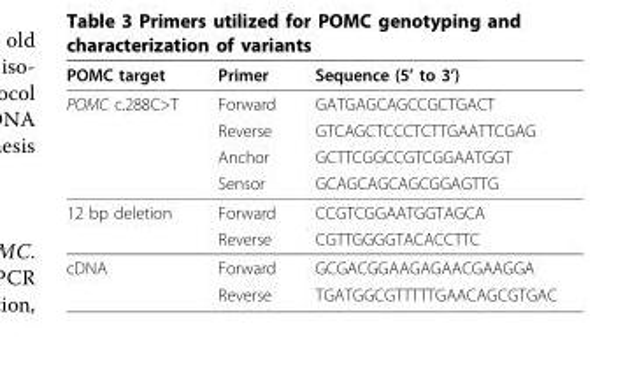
<table><thead><tr><td>POMC target</td><td>Primer</td><td>Sequence (5’ to 3’)</td></tr></thead><tbody><tr><td rowspan="4">POMC c.288C&gt;T</td><td>Forward</td><td>GATGAGCAGCCGCTGACT</td></tr><tr><td>Reverse</td><td>GTCAGCTCCCTCTTGAATTCGAG</td></tr><tr><td>Anchor</td><td>GCTTCGGCCGTCGGAATGGT</td></tr><tr><td>Sensor</td><td>GCAGCAGCAGCGGAGTTG</td></tr><tr><td rowspan="2">12 bp deletion</td><td>Forward</td><td>CCGTCGGAATGGTAGCA</td></tr><tr><td>Reverse</td><td>CGTTGGGGTACACCTTC</td></tr><tr><td rowspan="2">cDNA</td><td>Forward</td><td>GCGACGGAAGAGAACGAAGGA</td></tr><tr><td>Reverse</td><td>TGATGGCGTTTTTGAACAGCGTGAC</td></tr></tbody></table>